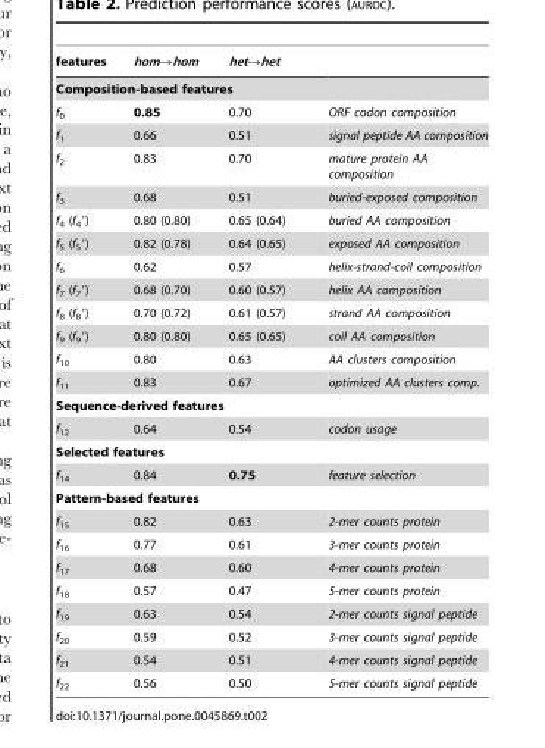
<table><thead><tr><td>features</td><td>hom→hom</td><td>het→het</td><td></td></tr></thead><tbody><tr><td colspan="4">Composition-based features</td></tr><tr><td>f<sub>0</sub></td><td>0.85</td><td>0.70</td><td>ORF codon composition</td></tr><tr><td>f<sub>1</sub></td><td>0.66</td><td>0.51</td><td>signal peptide AA composition</td></tr><tr><td>f<sub>2</sub></td><td>0.83</td><td>0.70</td><td>mature protein AA composition</td></tr><tr><td>f<sub>3</sub></td><td>0.68</td><td>0.51</td><td>buried-exposed composition</td></tr><tr><td>f<sub>4</sub> (f<sub>4</sub>′)</td><td>0.80 (0.80)</td><td>0.65 (0.64)</td><td>buried AA composition</td></tr><tr><td>f<sub>5</sub> (f<sub>5</sub>′)</td><td>0.82 (0.78)</td><td>0.64 (0.65)</td><td>exposed AA composition</td></tr><tr><td>f<sub>6</sub></td><td>0.62</td><td>0.57</td><td>helix-strand-coil composition</td></tr><tr><td>f<sub>7</sub> (f<sub>7</sub>′)</td><td>0.68 (0.70)</td><td>0.60 (0.57)</td><td>helix AA composition</td></tr><tr><td>f<sub>8</sub> (f<sub>8</sub>′)</td><td>0.70 (0.72)</td><td>0.61 (0.57)</td><td>strand AA composition</td></tr><tr><td>f<sub>9</sub> (f<sub>9</sub>′)</td><td>0.80 (0.80)</td><td>0.65 (0.65)</td><td>coil AA composition</td></tr><tr><td>f<sub>10</sub></td><td>0.80</td><td>0.63</td><td>AA clusters composition</td></tr><tr><td>f<sub>11</sub></td><td>0.83</td><td>0.67</td><td>optimized AA clusters comp.</td></tr><tr><td colspan="4">Sequence-derived features</td></tr><tr><td>f<sub>12</sub></td><td>0.64</td><td>0.54</td><td>codon usage</td></tr><tr><td colspan="4">Selected features</td></tr><tr><td>f<sub>14</sub></td><td>0.84</td><td>0.75</td><td>feature selection</td></tr><tr><td colspan="4">Pattern-based features</td></tr><tr><td>f<sub>15</sub></td><td>0.82</td><td>0.63</td><td>2-mer counts protein</td></tr><tr><td>f<sub>16</sub></td><td>0.77</td><td>0.61</td><td>3-mer counts protein</td></tr><tr><td>f<sub>17</sub></td><td>0.68</td><td>0.60</td><td>4-mer counts protein</td></tr><tr><td>f<sub>18</sub></td><td>0.57</td><td>0.47</td><td>5-mer counts protein</td></tr><tr><td>f<sub>19</sub></td><td>0.63</td><td>0.54</td><td>2-mer counts signal peptide</td></tr><tr><td>f<sub>20</sub></td><td>0.59</td><td>0.52</td><td>3-mer counts signal peptide</td></tr><tr><td>f<sub>21</sub></td><td>0.54</td><td>0.51</td><td>4-mer counts signal peptide</td></tr><tr><td>f<sub>22</sub></td><td>0.56</td><td>0.50</td><td>5-mer counts signal peptide</td></tr></tbody></table>